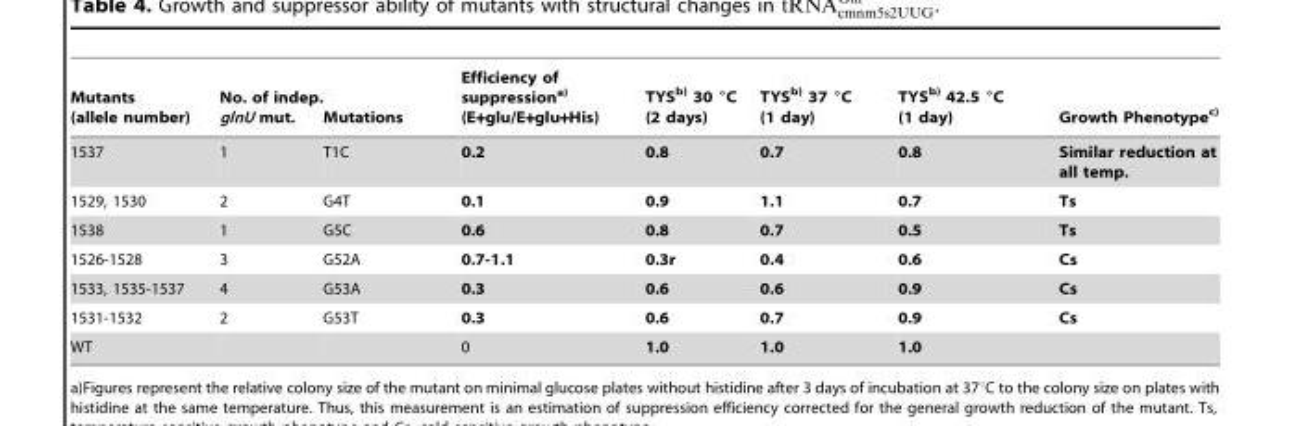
<table><thead><tr><td>Mutants (allele number)</td><td>No. of indep. glnU mut.</td><td>Mutations</td><td>Efficiency of suppression<sup>a)</sup> (E+glu/E+glu+His)</td><td>TYS<sup>b)</sup> 30 °C (2 days)</td><td>TYS<sup>b)</sup> 37 °C (1 day)</td><td>TYS<sup>b)</sup> 42.5 °C (1 day)</td><td>Growth Phenotype<sup>c)</sup></td></tr></thead><tbody><tr><td>1537</td><td>1</td><td>T1C</td><td>0.2</td><td>0.8</td><td>0.7</td><td>0.8</td><td>Similar reduction at all temp.</td></tr><tr><td>1529, 1530</td><td>2</td><td>G4T</td><td>0.1</td><td>0.9</td><td>1.1</td><td>0.7</td><td>Ts</td></tr><tr><td>1538</td><td>1</td><td>G5C</td><td>0.6</td><td>0.8</td><td>0.7</td><td>0.5</td><td>Ts</td></tr><tr><td>1526-1528</td><td>3</td><td>G52A</td><td>0.7-1.1</td><td>0.3r</td><td>0.4</td><td>0.6</td><td>Cs</td></tr><tr><td>1533, 1535-1537</td><td>4</td><td>G53A</td><td>0.3</td><td>0.6</td><td>0.6</td><td>0.9</td><td>Cs</td></tr><tr><td>1531-1532</td><td>2</td><td>G53T</td><td>0.3</td><td>0.6</td><td>0.7</td><td>0.9</td><td>Cs</td></tr><tr><td>WT</td><td></td><td></td><td>0</td><td>1.0</td><td>1.0</td><td>1.0</td><td></td></tr></tbody></table>